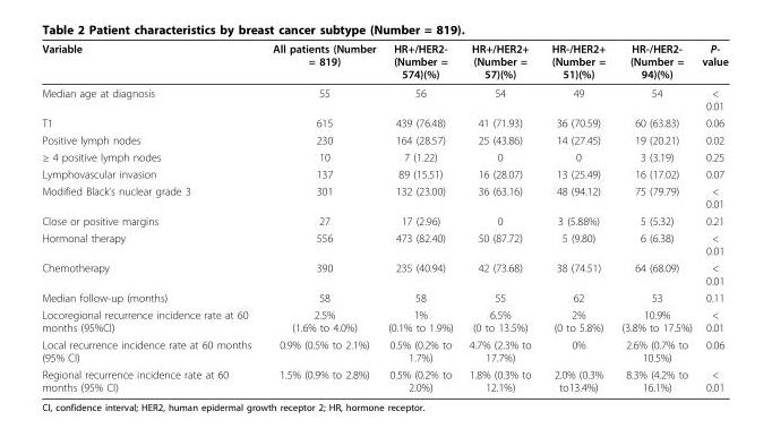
<table><thead><tr><td>Variable</td><td>All patients (Number = 819)</td><td>HR+/HER2- (Number = 574)(%)</td><td>HR+/HER2+ (Number = 57)(%)</td><td>HR-/HER2+ (Number = 51)(%)</td><td>HR-/HER2- (Number = 94)(%)</td><td>P- value</td></tr></thead><tbody><tr><td>Median age at diagnosis</td><td>55</td><td>56</td><td>54</td><td>49</td><td>54</td><td>&lt; 0.01</td></tr><tr><td>T1</td><td>615</td><td>439 (76.48)</td><td>41 (71.93)</td><td>36 (70.59)</td><td>60 (63.83)</td><td>0.06</td></tr><tr><td>Positive lymph nodes</td><td>230</td><td>164 (28.57)</td><td>25 (43.86)</td><td>14 (27.45)</td><td>19 (20.21)</td><td>0.02</td></tr><tr><td>≥ 4 positive lymph nodes</td><td>10</td><td>7 (1.22)</td><td>0</td><td>0</td><td>3 (3.19)</td><td>0.25</td></tr><tr><td>Lymphovascular invasion</td><td>137</td><td>89 (15.51)</td><td>16 (28.07)</td><td>13 (25.49)</td><td>16 (17.02)</td><td>0.07</td></tr><tr><td>Modified Black’s nuclear grade 3</td><td>301</td><td>132 (23.00)</td><td>36 (63.16)</td><td>48 (94.12)</td><td>75 (79.79)</td><td>&lt; 0.01</td></tr><tr><td>Close or positive margins</td><td>27</td><td>17 (2.96)</td><td>0</td><td>3 (5.88%)</td><td>5 (5.32)</td><td>0.21</td></tr><tr><td>Hormonal therapy</td><td>556</td><td>473 (82.40)</td><td>50 (87.72)</td><td>5 (9.80)</td><td>6 (6.38)</td><td>&lt; 0.01</td></tr><tr><td>Chemotherapy</td><td>390</td><td>235 (40.94)</td><td>42 (73.68)</td><td>38 (74.51)</td><td>64 (68.09)</td><td>&lt; 0.01</td></tr><tr><td>Median follow-up (months)</td><td>58</td><td>58</td><td>55</td><td>62</td><td>53</td><td>0.11</td></tr><tr><td>Locoregional recurrence incidence rate at 60 months (95%CI)</td><td>2.5% (1.6% to 4.0%)</td><td>1% (0.1% to 1.9%)</td><td>6.5% (0 to 13.5%)</td><td>2% (0 to 5.8%)</td><td>10.9% (3.8% to 17.5%)</td><td>&lt; 0.01</td></tr><tr><td>Local recurrence incidence rate at 60 months (95% CI)</td><td>0.9% (0.5% to 2.1%)</td><td>0.5% (0.2% to 1.7%)</td><td>4.7% (2.3% to 17.7%)</td><td>0%</td><td>2.6% (0.7% to 10.5%)</td><td>0.06</td></tr><tr><td>Regional recurrence incidence rate at 60 months (95% CI)</td><td>1.5% (0.9% to 2.8%)</td><td>0.5% (0.2% to 2.0%)</td><td>1.8% (0.3% to 12.1%)</td><td>2.0% (0.3% to13.4%)</td><td>8.3% (4.2% to 16.1%)</td><td>&lt; 0.01</td></tr></tbody></table>